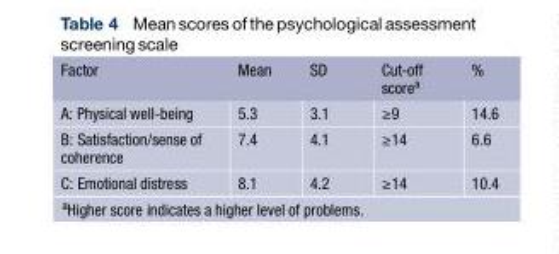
<table><thead><tr><td>Factor</td><td>Mean</td><td>SD</td><td>Cut-off score<sup>a</sup></td><td>%</td></tr></thead><tbody><tr><td>A: Physical well-being</td><td>5.3</td><td>3.1</td><td>≥9</td><td>14.6</td></tr><tr><td>B: Satisfaction/sense of coherence</td><td>7.4</td><td>4.1</td><td>≥14</td><td>6.6</td></tr><tr><td>C: Emotional distress</td><td>8.1</td><td>4.2</td><td>≥14</td><td>10.4</td></tr></tbody></table>